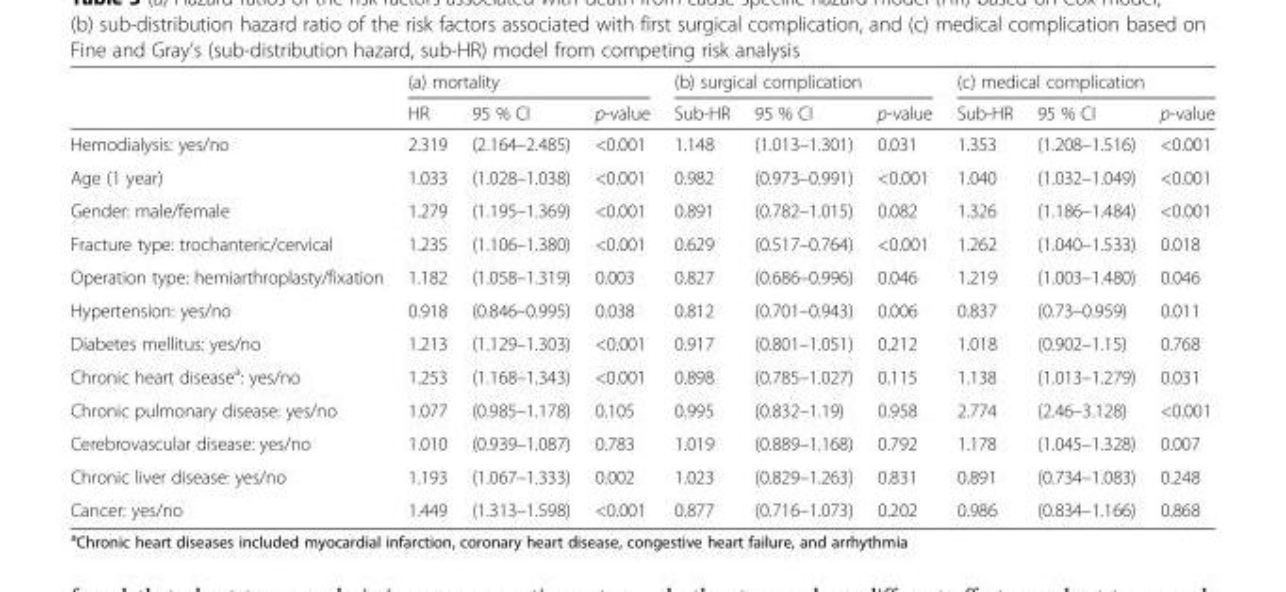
<table><thead><tr><td rowspan="2"></td><td colspan="3">(a) mortality</td><td colspan="3">(b) surgical complication</td><td colspan="3">(c) medical complication</td></tr><tr><td>HR</td><td>95 % CI</td><td>p-value</td><td>Sub-HR</td><td>95 % CI</td><td>p-value</td><td>Sub-HR</td><td>95 % CI</td><td>p-value</td></tr></thead><tbody><tr><td>Hemodialysis: yes/no</td><td>2.319</td><td>(2.164–2.485)</td><td>&lt;0.001</td><td>1.148</td><td>(1.013–1.301)</td><td>0.031</td><td>1.353</td><td>(1.208–1.516)</td><td>&lt;0.001</td></tr><tr><td>Age (1 year)</td><td>1.033</td><td>(1.028–1.038)</td><td>&lt;0.001</td><td>0.982</td><td>(0.973–0.991)</td><td>&lt;0.001</td><td>1.040</td><td>(1.032–1.049)</td><td>&lt;0.001</td></tr><tr><td>Gender: male/female</td><td>1.279</td><td>(1.195–1.369)</td><td>&lt;0.001</td><td>0.891</td><td>(0.782–1.015)</td><td>0.082</td><td>1.326</td><td>(1.186–1.484)</td><td>&lt;0.001</td></tr><tr><td>Fracture type: trochanteric/cervical</td><td>1.235</td><td>(1.106–1.380)</td><td>&lt;0.001</td><td>0.629</td><td>(0.517–0.764)</td><td>&lt;0.001</td><td>1.262</td><td>(1.040–1.533)</td><td>0.018</td></tr><tr><td>Operation type: hemiarthroplasty/fixation</td><td>1.182</td><td>(1.058–1.319)</td><td>0.003</td><td>0.827</td><td>(0.686–0.996)</td><td>0.046</td><td>1.219</td><td>(1.003–1.480)</td><td>0.046</td></tr><tr><td>Hypertension: yes/no</td><td>0.918</td><td>(0.846–0.995)</td><td>0.038</td><td>0.812</td><td>(0.701–0.943)</td><td>0.006</td><td>0.837</td><td>(0.73–0.959)</td><td>0.011</td></tr><tr><td>Diabetes mellitus: yes/no</td><td>1.213</td><td>(1.129–1.303)</td><td>&lt;0.001</td><td>0.917</td><td>(0.801–1.051)</td><td>0.212</td><td>1.018</td><td>(0.902–1.15)</td><td>0.768</td></tr><tr><td>Chronic heart disease<sup>a</sup>: yes/no</td><td>1.253</td><td>(1.168–1.343)</td><td>&lt;0.001</td><td>0.898</td><td>(0.785–1.027)</td><td>0.115</td><td>1.138</td><td>(1.013–1.279)</td><td>0.031</td></tr><tr><td>Chronic pulmonary disease: yes/no</td><td>1.077</td><td>(0.985–1.178)</td><td>0.105</td><td>0.995</td><td>(0.832–1.19)</td><td>0.958</td><td>2.774</td><td>(2.46–3.128)</td><td>&lt;0.001</td></tr><tr><td>Cerebrovascular disease: yes/no</td><td>1.010</td><td>(0.939–1.087)</td><td>0.783</td><td>1.019</td><td>(0.889–1.168)</td><td>0.792</td><td>1.178</td><td>(1.045–1.328)</td><td>0.007</td></tr><tr><td>Chronic liver disease: yes/no</td><td>1.193</td><td>(1.067–1.333)</td><td>0.002</td><td>1.023</td><td>(0.829–1.263)</td><td>0.831</td><td>0.891</td><td>(0.734–1.083)</td><td>0.248</td></tr><tr><td>Cancer: yes/no</td><td>1.449</td><td>(1.313–1.598)</td><td>&lt;0.001</td><td>0.877</td><td>(0.716–1.073)</td><td>0.202</td><td>0.986</td><td>(0.834–1.166)</td><td>0.868</td></tr></tbody></table>